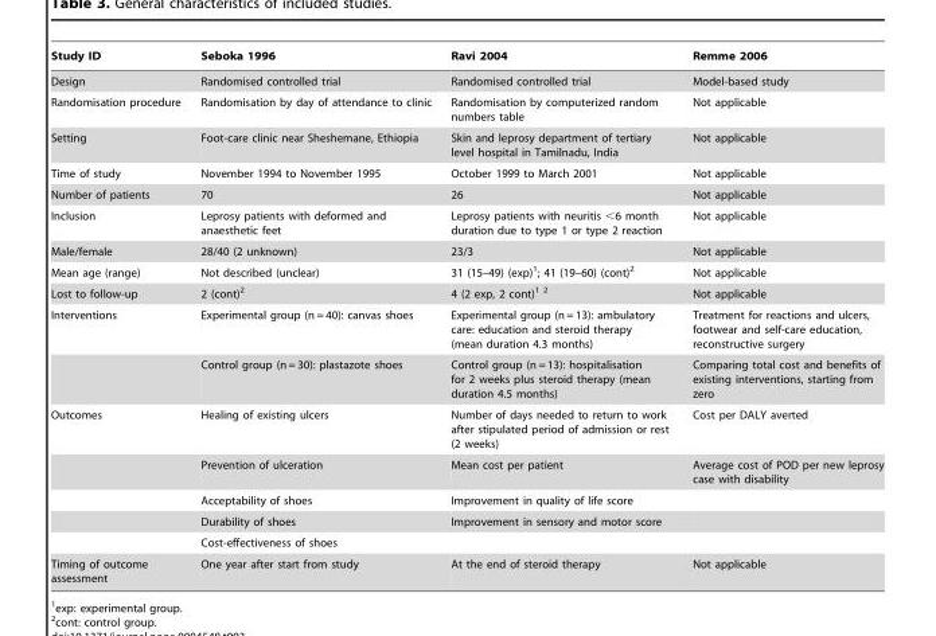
<table><thead><tr><td>Study ID</td><td>Seboka 1996</td><td>Ravi 2004</td><td>Remme 2006</td></tr></thead><tbody><tr><td>Design</td><td>Randomised controlled trial</td><td>Randomised controlled trial</td><td>Model-based study</td></tr><tr><td>Randomisation procedure</td><td>Randomisation by day of attendance to clinic</td><td>Randomisation by computerized random numbers table</td><td>Not applicable</td></tr><tr><td>Setting</td><td>Foot-care clinic near Sheshemane, Ethiopia</td><td>Skin and leprosy department of tertiary level hospital in Tamilnadu, India</td><td>Not applicable</td></tr><tr><td>Time of study</td><td>November 1994 to November 1995</td><td>October 1999 to March 2001</td><td>Not applicable</td></tr><tr><td>Number of patients</td><td>70</td><td>26</td><td>Not applicable</td></tr><tr><td>Inclusion</td><td>Leprosy patients with deformed and anaesthetic feet</td><td>Leprosy patients with neuritis &lt;6 month duration due to type 1 or type 2 reaction</td><td>Not applicable</td></tr><tr><td>Male/female</td><td>28/40 (2 unknown)</td><td>23/3</td><td>Not applicable</td></tr><tr><td>Mean age (range)</td><td>Not described (unclear)</td><td>31 (15–49) (exp)<sup>1</sup>; 41 (19–60) (cont)<sup>2</sup></td><td>Not applicable</td></tr><tr><td>Lost to follow-up</td><td>2 (cont)<sup>2</sup></td><td>4 (2 exp, 2 cont)<sup>1 2</sup></td><td>Not applicable</td></tr><tr><td rowspan="2">Interventions</td><td>Experimental group (n = 40): canvas shoes</td><td>Experimental group (n = 13): ambulatory care: education and steroid therapy (mean duration 4.3 months)</td><td>Treatment for reactions and ulcers, footwear and self-care education, reconstructive surgery</td></tr><tr><td>Control group (n = 30): plastazote shoes</td><td>Control group (n = 13): hospitalisation for 2 weeks plus steroid therapy (mean duration 4.5 months)</td><td>Comparing total cost and benefits of existing interventions, starting from zero</td></tr><tr><td rowspan="5">Outcomes</td><td>Healing of existing ulcers</td><td>Number of days needed to return to work after stipulated period of admission or rest (2 weeks)</td><td>Cost per DALY averted</td></tr><tr><td>Prevention of ulceration</td><td>Mean cost per patient</td><td>Average cost of POD per new leprosy case with disability</td></tr><tr><td>Acceptability of shoes</td><td>Improvement in quality of life score</td><td></td></tr><tr><td>Durability of shoes</td><td>Improvement in sensory and motor score</td><td></td></tr><tr><td>Cost-effectiveness of shoes</td><td></td><td></td></tr><tr><td>Timing of outcome assessment</td><td>One year after start from study</td><td>At the end of steroid therapy</td><td>Not applicable</td></tr></tbody></table>